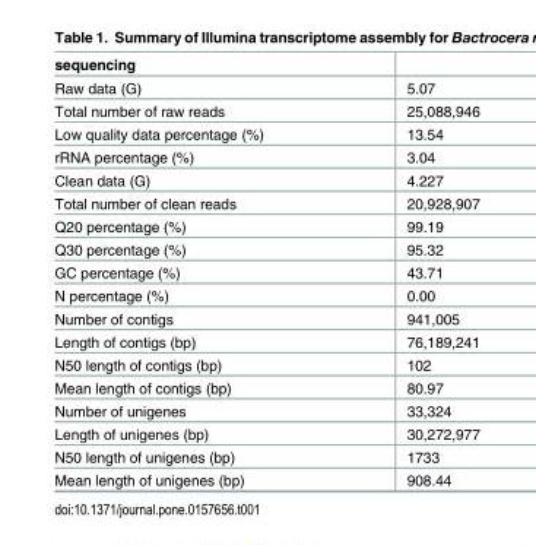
<table><thead><tr><td>sequencing</td><td></td></tr></thead><tbody><tr><td>Raw data (G)</td><td>5.07</td></tr><tr><td>Total number of raw reads</td><td>25,088,946</td></tr><tr><td>Low quality data percentage (%)</td><td>13.54</td></tr><tr><td>rRNA percentage (%)</td><td>3.04</td></tr><tr><td>Clean data (G)</td><td>4.227</td></tr><tr><td>Total number of clean reads</td><td>20,928,907</td></tr><tr><td>Q20 percentage (%)</td><td>99.19</td></tr><tr><td>Q30 percentage (%)</td><td>95.32</td></tr><tr><td>GC percentage (%)</td><td>43.71</td></tr><tr><td>N percentage (%)</td><td>0.00</td></tr><tr><td>Number of contigs</td><td>941,005</td></tr><tr><td>Length of contigs (bp)</td><td>76,189,241</td></tr><tr><td>N50 length of contigs (bp)</td><td>102</td></tr><tr><td>Mean length of contigs (bp)</td><td>80.97</td></tr><tr><td>Number of unigenes</td><td>33,324</td></tr><tr><td>Length of unigenes (bp)</td><td>30,272,977</td></tr><tr><td>N50 length of unigenes (bp)</td><td>1733</td></tr><tr><td>Mean length of unigenes (bp)</td><td>908.44</td></tr></tbody></table>